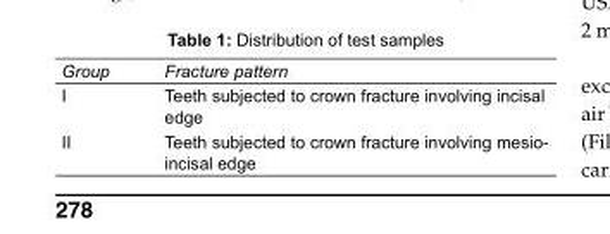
<table><tbody><tr><td>Group</td><td>Fracture pattern</td></tr><tr><td>I</td><td>Teeth subjected to crown fracture involving incisal edge</td></tr><tr><td>II</td><td>Teeth subjected to crown fracture involving mesio- incisal edge</td></tr></tbody></table>